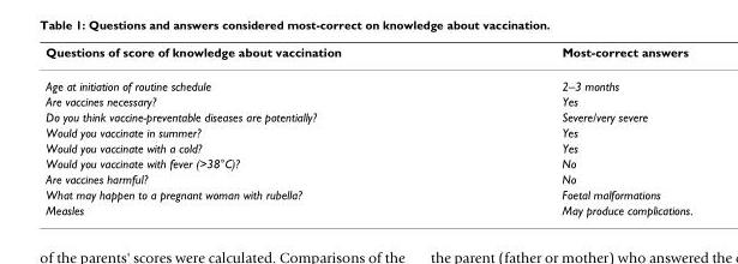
<table><thead><tr><td>Questions of score of knowledge about vaccination</td><td>Most-correct answers</td></tr></thead><tbody><tr><td>Age at initiation of routine schedule</td><td>2–3 months</td></tr><tr><td>Are vaccines necessary?</td><td>Yes</td></tr><tr><td>Do you think vaccine-preventable diseases are potentially?</td><td>Severe/very severe</td></tr><tr><td>Would you vaccinate in summer?</td><td>Yes</td></tr><tr><td>Would you vaccinate with a cold?</td><td>Yes</td></tr><tr><td>Would you vaccinate with fever (&gt;38°C)?</td><td>No</td></tr><tr><td>Are vaccines harmful?</td><td>No</td></tr><tr><td>What may happen to a pregnant woman with rubella?</td><td>Foetal malformations</td></tr><tr><td>Measles</td><td>May produce complications.</td></tr></tbody></table>